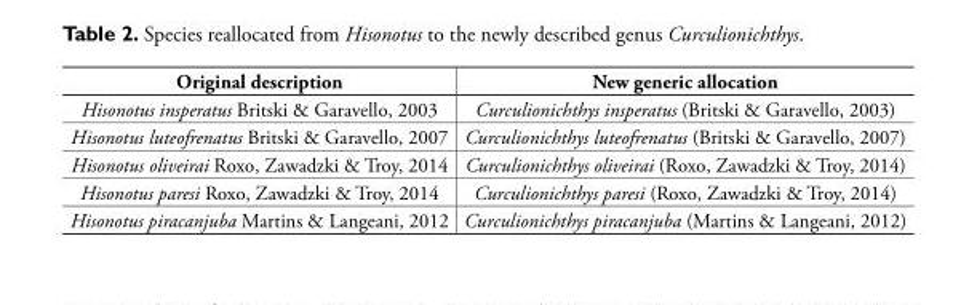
<table><thead><tr><td>Original description</td><td>New generic allocation</td></tr></thead><tbody><tr><td>Hisonotus insperatus Britski &amp; Garavello, 2003</td><td>Curculionichthys insperatus (Britski &amp; Garavello, 2003)</td></tr><tr><td>Hisonotus luteofrenatus Britski &amp; Garavello, 2007</td><td>Curculionichthys luteofrenatus (Britski &amp; Garavello, 2007)</td></tr><tr><td>Hisonotus oliveirai Roxo, Zawadzki &amp; Troy, 2014</td><td>Curculionichthys oliveirai (Roxo, Zawadzki &amp; Troy, 2014)</td></tr><tr><td>Hisonotus paresi Roxo, Zawadzki &amp; Troy, 2014</td><td>Curculionichthys paresi (Roxo, Zawadzki &amp; Troy, 2014)</td></tr><tr><td>Hisonotus piracanjuba Martins &amp; Langeani, 2012</td><td>Curculionichthys piracanjuba (Martins &amp; Langeani, 2012)</td></tr></tbody></table>